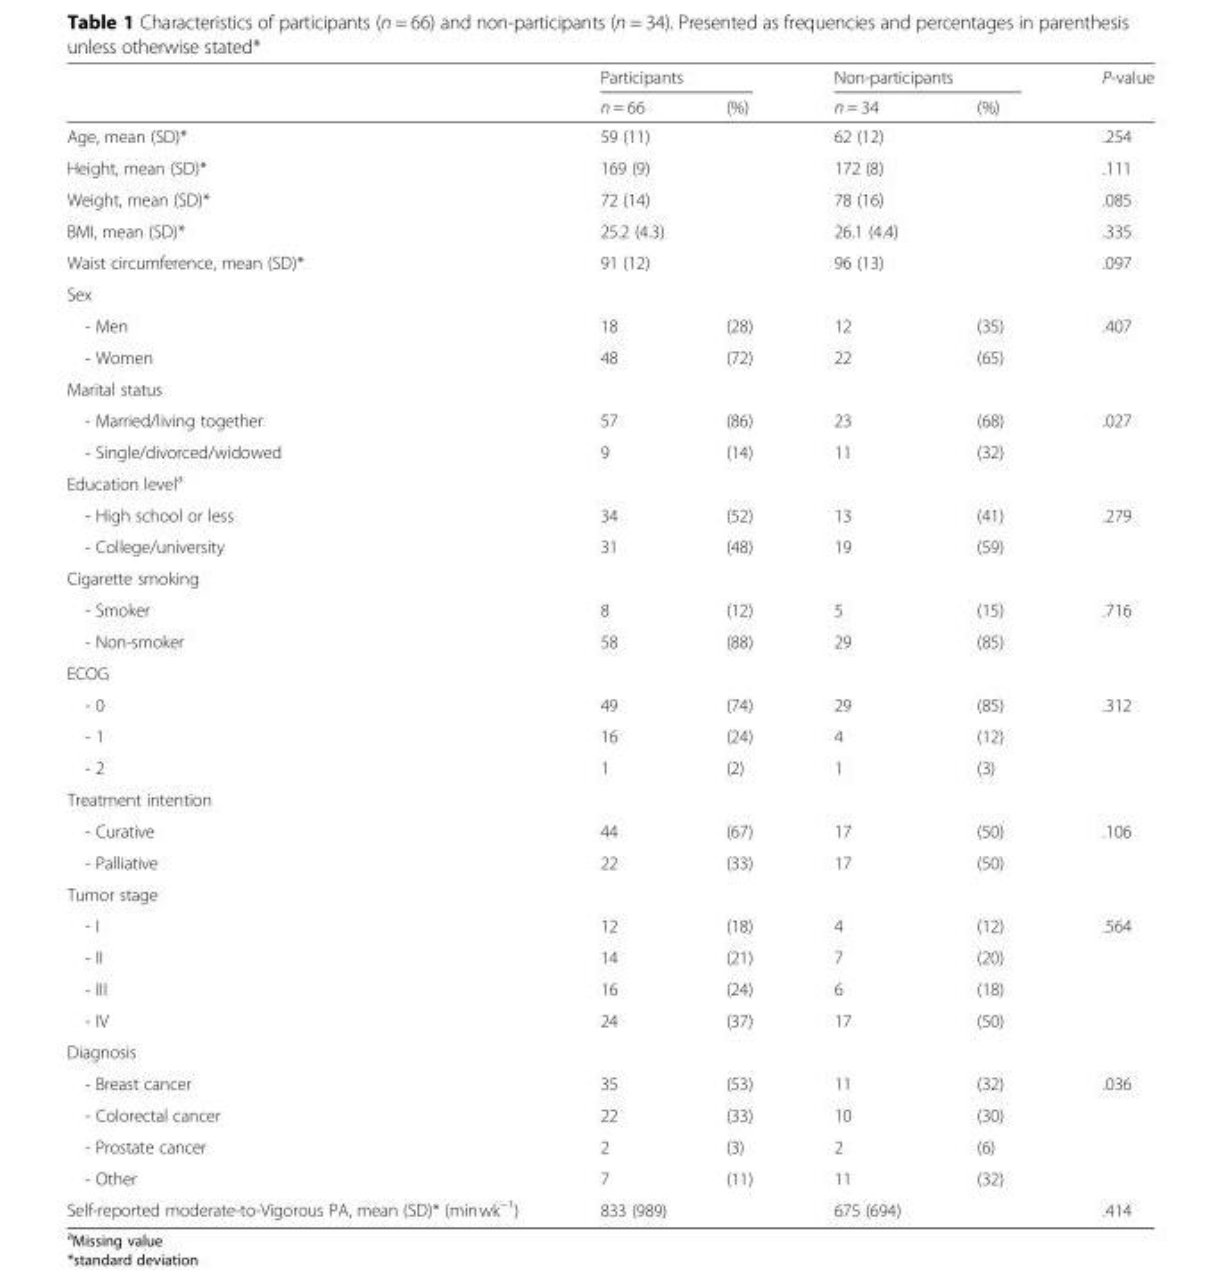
<table><thead><tr><td rowspan="2"></td><td colspan="2">Participants</td><td colspan="2">Non-participants</td><td rowspan="2">P-value</td></tr><tr><td>n = 66</td><td>(%)</td><td>n = 34</td><td>(%)</td></tr></thead><tbody><tr><td>Age, mean (SD)*</td><td colspan="2">59 (11)</td><td colspan="2">62 (12)</td><td>.254</td></tr><tr><td>Height, mean (SD)*</td><td colspan="2">169 (9)</td><td colspan="2">172 (8)</td><td>.111</td></tr><tr><td>Weight, mean (SD)*</td><td colspan="2">72 (14)</td><td colspan="2">78 (16)</td><td>.085</td></tr><tr><td>BMI, mean (SD)*</td><td colspan="2">25.2 (4.3)</td><td colspan="2">26.1 (4.4)</td><td>.335</td></tr><tr><td>Waist circumference, mean (SD)*</td><td colspan="2">91 (12)</td><td colspan="2">96 (13)</td><td>.097</td></tr><tr><td colspan="6">Sex</td></tr><tr><td>- Men</td><td>18</td><td>(28)</td><td>12</td><td>(35)</td><td>.407</td></tr><tr><td>- Women</td><td>48</td><td>(72)</td><td>22</td><td>(65)</td><td></td></tr><tr><td colspan="6">Marital status</td></tr><tr><td>- Married/living together</td><td>57</td><td>(86)</td><td>23</td><td>(68)</td><td>.027</td></tr><tr><td>- Single/divorced/widowed</td><td>9</td><td>(14)</td><td>11</td><td>(32)</td><td></td></tr><tr><td colspan="6">Education level<sup>a</sup></td></tr><tr><td>- High school or less</td><td>34</td><td>(52)</td><td>13</td><td>(41)</td><td>.279</td></tr><tr><td>- College/university</td><td>31</td><td>(48)</td><td>19</td><td>(59)</td><td></td></tr><tr><td colspan="6">Cigarette smoking</td></tr><tr><td>- Smoker</td><td>8</td><td>(12)</td><td>5</td><td>(15)</td><td>.716</td></tr><tr><td>- Non-smoker</td><td>58</td><td>(88)</td><td>29</td><td>(85)</td><td></td></tr><tr><td colspan="6">ECOG</td></tr><tr><td>- 0</td><td>49</td><td>(74)</td><td>29</td><td>(85)</td><td>.312</td></tr><tr><td>- 1</td><td>16</td><td>(24)</td><td>4</td><td>(12)</td><td></td></tr><tr><td>- 2</td><td>1</td><td>(2)</td><td>1</td><td>(3)</td><td></td></tr><tr><td colspan="6">Treatment intention</td></tr><tr><td>- Curative</td><td>44</td><td>(67)</td><td>17</td><td>(50)</td><td>.106</td></tr><tr><td>- Palliative</td><td>22</td><td>(33)</td><td>17</td><td>(50)</td><td></td></tr><tr><td colspan="6">Tumor stage</td></tr><tr><td>- I</td><td>12</td><td>(18)</td><td>4</td><td>(12)</td><td>.564</td></tr><tr><td>- II</td><td>14</td><td>(21)</td><td>7</td><td>(20)</td><td></td></tr><tr><td>- III</td><td>16</td><td>(24)</td><td>6</td><td>(18)</td><td></td></tr><tr><td>- IV</td><td>24</td><td>(37)</td><td>17</td><td>(50)</td><td></td></tr><tr><td colspan="6">Diagnosis</td></tr><tr><td>- Breast cancer</td><td>35</td><td>(53)</td><td>11</td><td>(32)</td><td>.036</td></tr><tr><td>- Colorectal cancer</td><td>22</td><td>(33)</td><td>10</td><td>(30)</td><td></td></tr><tr><td>- Prostate cancer</td><td>2</td><td>(3)</td><td>2</td><td>(6)</td><td></td></tr><tr><td>- Other</td><td>7</td><td>(11)</td><td>11</td><td>(32)</td><td></td></tr><tr><td>Self-reported moderate-to-Vigorous PA, mean (SD)* (min<sup>.</sup>wk<sup>−1</sup>)</td><td colspan="2">833 (989)</td><td colspan="2">675 (694)</td><td>.414</td></tr></tbody></table>